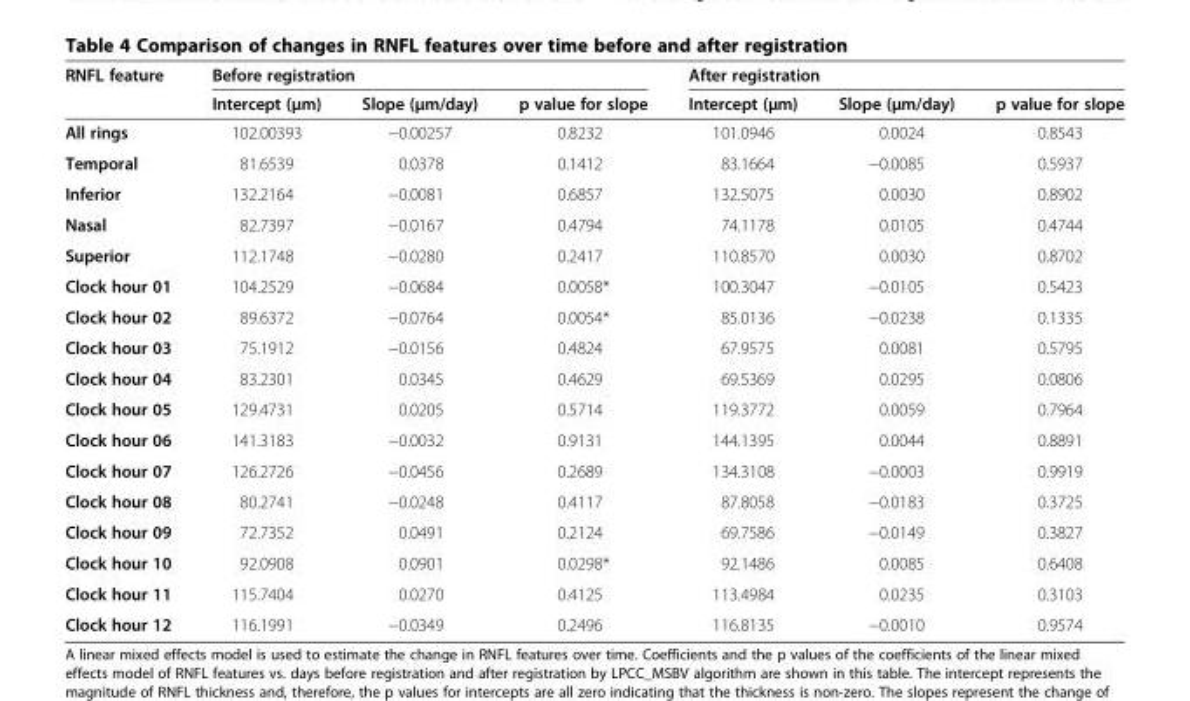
<table><thead><tr><td rowspan="2">RNFL feature</td><td colspan="3">Before registration</td><td colspan="3">After registration</td></tr><tr><td>Intercept (μm)</td><td>Slope (μm/day)</td><td>p value for slope</td><td>Intercept (μm)</td><td>Slope (μm/day)</td><td>p value for slope</td></tr></thead><tbody><tr><td>All rings</td><td>102.00393</td><td>−0.00257</td><td>0.8232</td><td>101.0946</td><td>0.0024</td><td>0.8543</td></tr><tr><td>Temporal</td><td>81.6539</td><td>0.0378</td><td>0.1412</td><td>83.1664</td><td>−0.0085</td><td>0.5937</td></tr><tr><td>Inferior</td><td>132.2164</td><td>−0.0081</td><td>0.6857</td><td>132.5075</td><td>0.0030</td><td>0.8902</td></tr><tr><td>Nasal</td><td>82.7397</td><td>−0.0167</td><td>0.4794</td><td>74.1178</td><td>0.0105</td><td>0.4744</td></tr><tr><td>Superior</td><td>112.1748</td><td>−0.0280</td><td>0.2417</td><td>110.8570</td><td>0.0030</td><td>0.8702</td></tr><tr><td>Clock hour 01</td><td>104.2529</td><td>−0.0684</td><td>0.0058*</td><td>100.3047</td><td>−0.0105</td><td>0.5423</td></tr><tr><td>Clock hour 02</td><td>89.6372</td><td>−0.0764</td><td>0.0054*</td><td>85.0136</td><td>−0.0238</td><td>0.1335</td></tr><tr><td>Clock hour 03</td><td>75.1912</td><td>−0.0156</td><td>0.4824</td><td>67.9575</td><td>0.0081</td><td>0.5795</td></tr><tr><td>Clock hour 04</td><td>83.2301</td><td>0.0345</td><td>0.4629</td><td>69.5369</td><td>0.0295</td><td>0.0806</td></tr><tr><td>Clock hour 05</td><td>129.4731</td><td>0.0205</td><td>0.5714</td><td>119.3772</td><td>0.0059</td><td>0.7964</td></tr><tr><td>Clock hour 06</td><td>141.3183</td><td>−0.0032</td><td>0.9131</td><td>144.1395</td><td>0.0044</td><td>0.8891</td></tr><tr><td>Clock hour 07</td><td>126.2726</td><td>−0.0456</td><td>0.2689</td><td>134.3108</td><td>−0.0003</td><td>0.9919</td></tr><tr><td>Clock hour 08</td><td>80.2741</td><td>−0.0248</td><td>0.4117</td><td>87.8058</td><td>−0.0183</td><td>0.3725</td></tr><tr><td>Clock hour 09</td><td>72.7352</td><td>0.0491</td><td>0.2124</td><td>69.7586</td><td>−0.0149</td><td>0.3827</td></tr><tr><td>Clock hour 10</td><td>92.0908</td><td>0.0901</td><td>0.0298*</td><td>92.1486</td><td>0.0085</td><td>0.6408</td></tr><tr><td>Clock hour 11</td><td>115.7404</td><td>0.0270</td><td>0.4125</td><td>113.4984</td><td>0.0235</td><td>0.3103</td></tr><tr><td>Clock hour 12</td><td>116.1991</td><td>−0.0349</td><td>0.2496</td><td>116.8135</td><td>−0.0010</td><td>0.9574</td></tr></tbody></table>